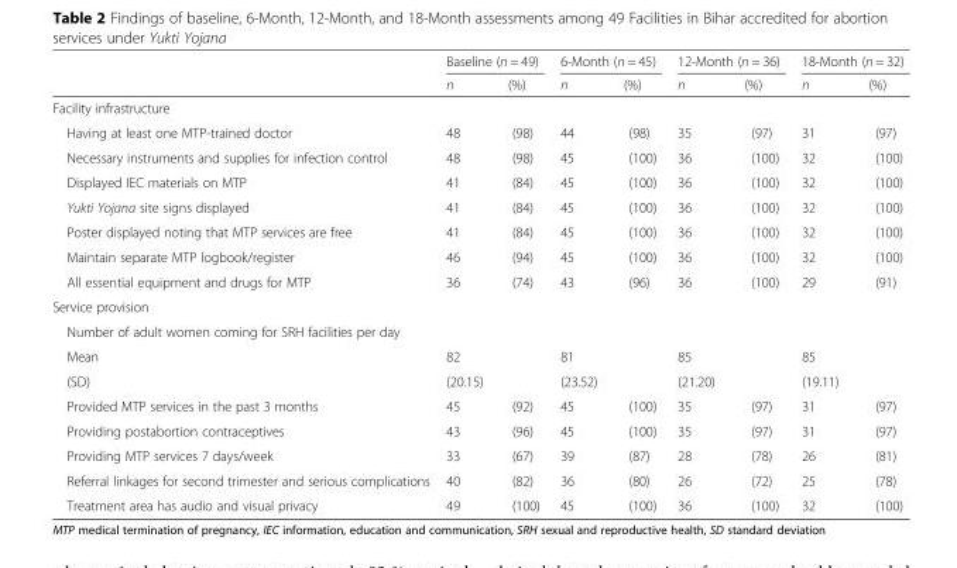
<table><thead><tr><td rowspan="2"></td><td colspan="2">Baseline (n = 49)</td><td colspan="2">6-Month (n = 45)</td><td colspan="2">12-Month (n = 36)</td><td colspan="2">18-Month (n = 32)</td></tr><tr><td>n</td><td>(%)</td><td>n</td><td>(%)</td><td>n</td><td>(%)</td><td>n</td><td>(%)</td></tr></thead><tbody><tr><td colspan="9">Facility infrastructure</td></tr><tr><td>Having at least one MTP-trained doctor</td><td>48</td><td>(98)</td><td>44</td><td>(98)</td><td>35</td><td>(97)</td><td>31</td><td>(97)</td></tr><tr><td>Necessary instruments and supplies for infection control</td><td>48</td><td>(98)</td><td>45</td><td>(100)</td><td>36</td><td>(100)</td><td>32</td><td>(100)</td></tr><tr><td>Displayed IEC materials on MTP</td><td>41</td><td>(84)</td><td>45</td><td>(100)</td><td>36</td><td>(100)</td><td>32</td><td>(100)</td></tr><tr><td>Yukti Yojana site signs displayed</td><td>41</td><td>(84)</td><td>45</td><td>(100)</td><td>36</td><td>(100)</td><td>32</td><td>(100)</td></tr><tr><td>Poster displayed noting that MTP services are free</td><td>41</td><td>(84)</td><td>45</td><td>(100)</td><td>36</td><td>(100)</td><td>32</td><td>(100)</td></tr><tr><td>Maintain separate MTP logbook/register</td><td>46</td><td>(94)</td><td>45</td><td>(100)</td><td>36</td><td>(100)</td><td>32</td><td>(100)</td></tr><tr><td>All essential equipment and drugs for MTP</td><td>36</td><td>(74)</td><td>43</td><td>(96)</td><td>36</td><td>(100)</td><td>29</td><td>(91)</td></tr><tr><td colspan="9">Service provision</td></tr><tr><td colspan="9">Number of adult women coming for SRH facilities per day</td></tr><tr><td>Mean</td><td>82</td><td></td><td>81</td><td></td><td>85</td><td></td><td>85</td><td></td></tr><tr><td>(SD)</td><td>(20.15)</td><td></td><td>(23.52)</td><td></td><td>(21.20)</td><td></td><td>(19.11)</td><td></td></tr><tr><td>Provided MTP services in the past 3 months</td><td>45</td><td>(92)</td><td>45</td><td>(100)</td><td>35</td><td>(97)</td><td>31</td><td>(97)</td></tr><tr><td>Providing postabortion contraceptives</td><td>43</td><td>(96)</td><td>45</td><td>(100)</td><td>35</td><td>(97)</td><td>31</td><td>(97)</td></tr><tr><td>Providing MTP services 7 days/week</td><td>33</td><td>(67)</td><td>39</td><td>(87)</td><td>28</td><td>(78)</td><td>26</td><td>(81)</td></tr><tr><td>Referral linkages for second trimester and serious complications</td><td>40</td><td>(82)</td><td>36</td><td>(80)</td><td>26</td><td>(72)</td><td>25</td><td>(78)</td></tr><tr><td>Treatment area has audio and visual privacy</td><td>49</td><td>(100)</td><td>45</td><td>(100)</td><td>36</td><td>(100)</td><td>32</td><td>(100)</td></tr></tbody></table>